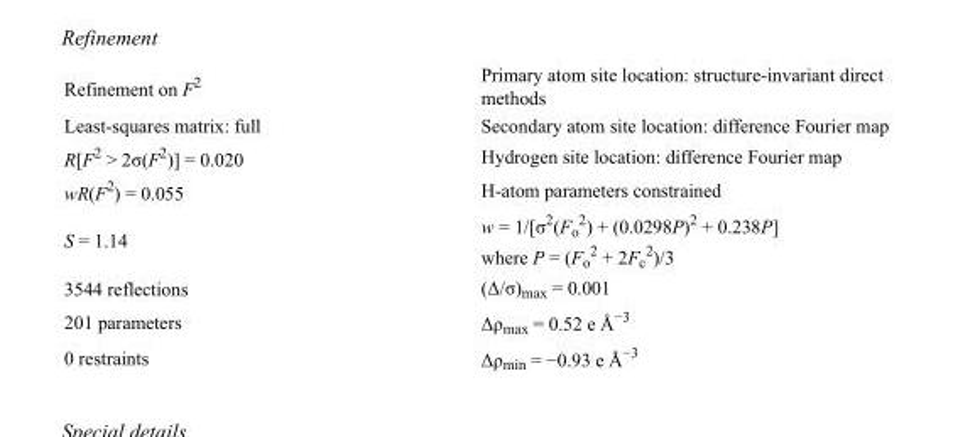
<table><tbody><tr><td>Refinement on F<sup>2</sup></td><td>Primary atom site location: structure-invariant direct methods</td></tr><tr><td>Least-squares matrix: full</td><td>Secondary atom site location: difference Fourier map</td></tr><tr><td>R[F<sup>2</sup> &gt; 2σ(F<sup>2</sup>)] = 0.020</td><td>Hydrogen site location: difference Fourier map</td></tr><tr><td>wR(F<sup>2</sup>) = 0.055</td><td>H-atom parameters constrained</td></tr><tr><td>S = 1.14</td><td>w = 1/[σ<sup>2</sup>(F<sub>o</sub> <sup>2</sup>) + (0.0298P)<sup>2</sup> + 0.238P] where P = (F<sub>o</sub> <sup>2</sup> + 2F<sub>c</sub> <sup>2</sup>)/3</td></tr><tr><td>3544 reflections</td><td>(Δ/σ)<sub>max</sub> = 0.001</td></tr><tr><td>201 parameters</td><td>Δρ<sub>max</sub> = 0.52 e Å<sup>−3</sup></td></tr><tr><td>0 restraints</td><td>Δρ<sub>min</sub> = −0.93 e Å<sup>−3</sup></td></tr></tbody></table>